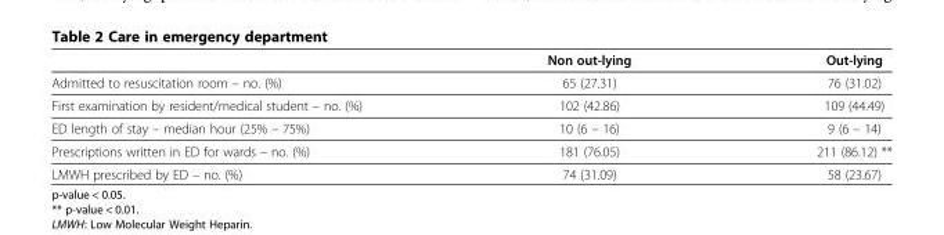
<table><thead><tr><td></td><td>Non out-lying</td><td>Out-lying</td></tr></thead><tbody><tr><td>Admitted to resuscitation room – no. (%)</td><td>65 (27.31)</td><td>76 (31.02)</td></tr><tr><td>First examination by resident/medical student – no. (%)</td><td>102 (42.86)</td><td>109 (44.49)</td></tr><tr><td>ED length of stay – median hour (25% – 75%)</td><td>10 (6 – 16)</td><td>9 (6 – 14)</td></tr><tr><td>Prescriptions written in ED for wards – no. (%)</td><td>181 (76.05)</td><td>211 (86.12) **</td></tr><tr><td>LMWH prescribed by ED – no. (%)</td><td>74 (31.09)</td><td>58 (23.67)</td></tr></tbody></table>